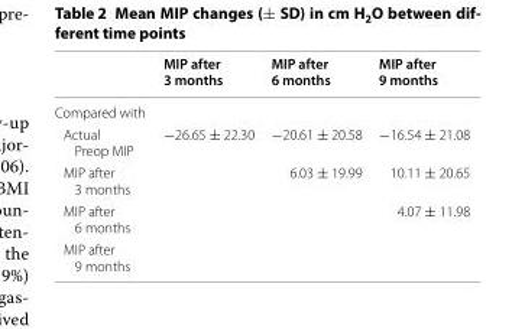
<table><thead><tr><td></td><td>MIP after 3 months</td><td>MIP after 6 months</td><td>MIP after 9 months</td></tr></thead><tbody><tr><td colspan="4">Compared with</td></tr><tr><td>Actual Preop MIP</td><td>−26.65 ± 22.30</td><td>−20.61 ± 20.58</td><td>−16.54 ± 21.08</td></tr><tr><td>MIP after 3 months</td><td></td><td>6.03 ± 19.99</td><td>10.11 ± 20.65</td></tr><tr><td>MIP after 6 months</td><td></td><td></td><td>4.07 ± 11.98</td></tr><tr><td>MIP after 9 months</td><td></td><td></td><td></td></tr></tbody></table>